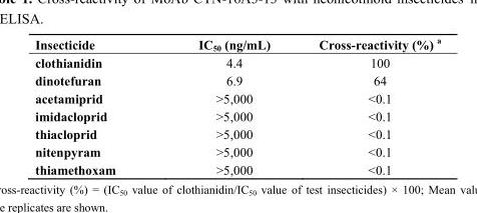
<table><thead><tr><td>Insecticide</td><td>IC<sub>50</sub> (ng/mL)</td><td>Cross-reactivity (%) <sup>a</sup></td></tr></thead><tbody><tr><td>clothianidin</td><td>4.4</td><td>100</td></tr><tr><td>dinotefuran</td><td>6.9</td><td>64</td></tr><tr><td>acetamiprid</td><td>&gt;5,000</td><td>&lt;0.1</td></tr><tr><td>imidacloprid</td><td>&gt;5,000</td><td>&lt;0.1</td></tr><tr><td>thiacloprid</td><td>&gt;5,000</td><td>&lt;0.1</td></tr><tr><td>nitenpyram</td><td>&gt;5,000</td><td>&lt;0.1</td></tr><tr><td>thiamethoxam</td><td>&gt;5,000</td><td>&lt;0.1</td></tr></tbody></table>